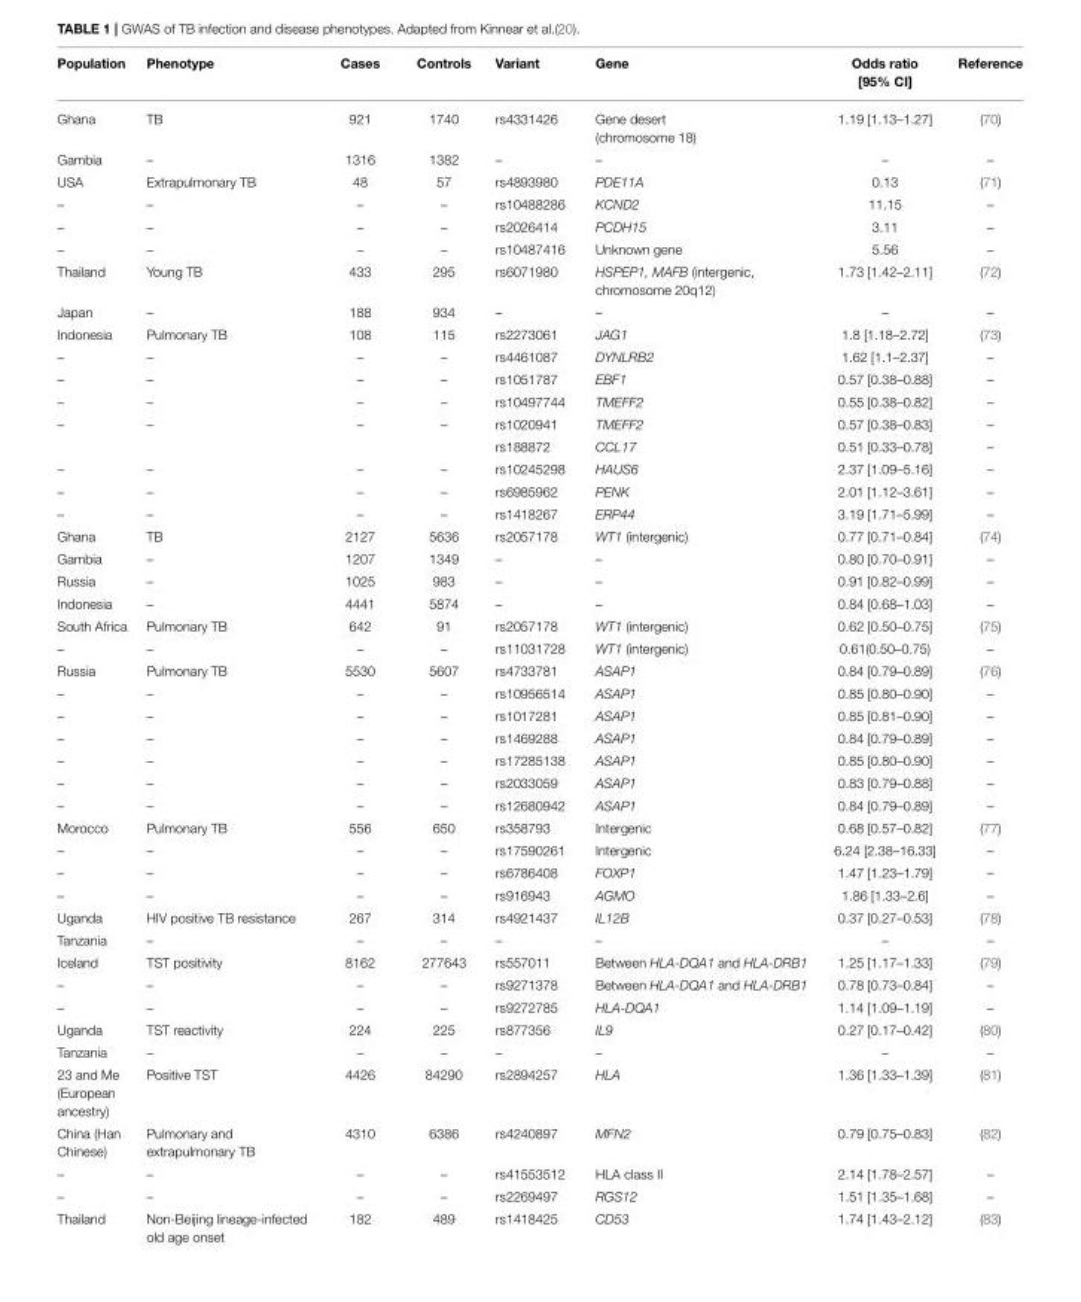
<table><thead><tr><td>Population</td><td>Phenotype</td><td>Cases</td><td>Controls</td><td>Variant</td><td>Gene</td><td>Odds ratio [95% CI]</td><td>Reference</td></tr></thead><tbody><tr><td>Ghana</td><td>TB</td><td>921</td><td>1740</td><td>rs4331426</td><td>Gene desert (chromosome 18)</td><td>1.19 [1.13–1.27]</td><td>(70)</td></tr><tr><td>Gambia</td><td>–</td><td>1316</td><td>1382</td><td>–</td><td>–</td><td>–</td><td>–</td></tr><tr><td>USA</td><td>Extrapulmonary TB</td><td>48</td><td>57</td><td>rs4893980</td><td>PDE11A</td><td>0.13</td><td>(71)</td></tr><tr><td>–</td><td>–</td><td>–</td><td>–</td><td>rs10488286</td><td>KCND2</td><td>11.15</td><td>–</td></tr><tr><td>–</td><td>–</td><td>–</td><td>–</td><td>rs2026414</td><td>PCDH15</td><td>3.11</td><td>–</td></tr><tr><td>–</td><td>–</td><td>–</td><td>–</td><td>rs10487416</td><td>Unknown gene</td><td>5.56</td><td>–</td></tr><tr><td>Thailand</td><td>Young TB</td><td>433</td><td>295</td><td>rs6071980</td><td>HSPEP1, MAFB (intergenic, chromosome 20q12)</td><td>1.73 [1.42–2.11]</td><td>(72)</td></tr><tr><td>Japan</td><td>–</td><td>188</td><td>934</td><td>–</td><td>–</td><td>–</td><td>–</td></tr><tr><td>Indonesia</td><td>Pulmonary TB</td><td>108</td><td>115</td><td>rs2273061</td><td>JAG1</td><td>1.8 [1.18–2.72]</td><td>(73)</td></tr><tr><td>–</td><td>–</td><td>–</td><td>–</td><td>rs4461087</td><td>DYNLRB2</td><td>1.62 [1.1–2.37]</td><td>–</td></tr><tr><td>–</td><td>–</td><td>–</td><td>–</td><td>rs1051787</td><td>EBF1</td><td>0.57 [0.38–0.88]</td><td>–</td></tr><tr><td>–</td><td>–</td><td>–</td><td>–</td><td>rs10497744</td><td>TMEFF2</td><td>0.55 [0.38–0.82]</td><td>–</td></tr><tr><td rowspan="2">–</td><td>–</td><td>–</td><td>–</td><td>rs1020941</td><td>TMEFF2</td><td>0.57 [0.38–0.83]</td><td>–</td></tr><tr><td></td><td></td><td></td><td>rs188872</td><td>CCL17</td><td>0.51 [0.33–0.78]</td><td>–</td></tr><tr><td>–</td><td>–</td><td>–</td><td>–</td><td>rs10245298</td><td>HAUS6</td><td>2.37 [1.09–5.16]</td><td>–</td></tr><tr><td>–</td><td>–</td><td>–</td><td>–</td><td>rs6985962</td><td>PENK</td><td>2.01 [1.12–3.61]</td><td>–</td></tr><tr><td>–</td><td>–</td><td>–</td><td>–</td><td>rs1418267</td><td>ERP44</td><td>3.19 [1.71–5.99]</td><td>–</td></tr><tr><td>Ghana</td><td>TB</td><td>2127</td><td>5636</td><td>rs2057178</td><td>WT1 (intergenic)</td><td>0.77 [0.71–0.84]</td><td>(74)</td></tr><tr><td>Gambia</td><td>–</td><td>1207</td><td>1349</td><td>–</td><td>–</td><td>0.80 [0.70–0.91]</td><td>–</td></tr><tr><td>Russia</td><td>–</td><td>1025</td><td>983</td><td>–</td><td>–</td><td>0.91 [0.82–0.99]</td><td>–</td></tr><tr><td>Indonesia</td><td>–</td><td>4441</td><td>5874</td><td>–</td><td>–</td><td>0.84 [0.68–1.03]</td><td>–</td></tr><tr><td>South Africa</td><td>Pulmonary TB</td><td>642</td><td>91</td><td>rs2057178</td><td>WT1 (intergenic)</td><td>0.62 [0.50–0.75]</td><td>(75)</td></tr><tr><td>–</td><td>–</td><td>–</td><td>–</td><td>rs11031728</td><td>WT1 (intergenic)</td><td>0.61(0.50–0.75)</td><td>–</td></tr><tr><td>Russia</td><td>Pulmonary TB</td><td>5530</td><td>5607</td><td>rs4733781</td><td>ASAP1</td><td>0.84 [0.79–0.89]</td><td>(76)</td></tr><tr><td>–</td><td>–</td><td>–</td><td>–</td><td>rs10956514</td><td>ASAP1</td><td>0.85 [0.80–0.90]</td><td>–</td></tr><tr><td>–</td><td>–</td><td>–</td><td>–</td><td>rs1017281</td><td>ASAP1</td><td>0.85 [0.81–0.90]</td><td>–</td></tr><tr><td>–</td><td>–</td><td>–</td><td>–</td><td>rs1469288</td><td>ASAP1</td><td>0.84 [0.79–0.89]</td><td>–</td></tr><tr><td>–</td><td>–</td><td>–</td><td>–</td><td>rs17285138</td><td>ASAP1</td><td>0.85 [0.80–0.90]</td><td>–</td></tr><tr><td>–</td><td>–</td><td>–</td><td>–</td><td>rs2033059</td><td>ASAP1</td><td>0.83 [0.79–0.88]</td><td>–</td></tr><tr><td>–</td><td>–</td><td>–</td><td>–</td><td>rs12680942</td><td>ASAP1</td><td>0.84 [0.79–0.89]</td><td>–</td></tr><tr><td>Morocco</td><td>Pulmonary TB</td><td>556</td><td>650</td><td>rs358793</td><td>Intergenic</td><td>0.68 [0.57–0.82]</td><td>(77)</td></tr><tr><td>–</td><td>–</td><td>–</td><td>–</td><td>rs17590261</td><td>Intergenic</td><td>6.24 [2.38–16.33]</td><td>–</td></tr><tr><td>–</td><td>–</td><td>–</td><td>–</td><td>rs6786408</td><td>FOXP1</td><td>1.47 [1.23–1.79]</td><td>–</td></tr><tr><td>–</td><td>–</td><td>–</td><td>–</td><td>rs916943</td><td>AGMO</td><td>1.86 [1.33–2.6]</td><td>–</td></tr><tr><td>Uganda</td><td>HIV positive TB resistance</td><td>267</td><td>314</td><td>rs4921437</td><td>IL12B</td><td>0.37 [0.27–0.53]</td><td>(78)</td></tr><tr><td>Tanzania</td><td>–</td><td>–</td><td>–</td><td>–</td><td>–</td><td>–</td><td>–</td></tr><tr><td>Iceland</td><td>TST positivity</td><td>8162</td><td>277643</td><td>rs557011</td><td>Between HLA-DQA1 and HLA-DRB1</td><td>1.25 [1.17–1.33]</td><td>(79)</td></tr><tr><td>–</td><td>–</td><td>–</td><td>–</td><td>rs9271378</td><td>Between HLA-DQA1 and HLA-DRB1</td><td>0.78 [0.73–0.84]</td><td>–</td></tr><tr><td>–</td><td>–</td><td>–</td><td>–</td><td>rs9272785</td><td>HLA-DQA1</td><td>1.14 [1.09–1.19]</td><td>–</td></tr><tr><td>Uganda</td><td>TST reactivity</td><td>224</td><td>225</td><td>rs877356</td><td>IL9</td><td>0.27 [0.17–0.42]</td><td>(80)</td></tr><tr><td>Tanzania</td><td>–</td><td>–</td><td>–</td><td>–</td><td>–</td><td>–</td><td>–</td></tr><tr><td>23 and Me (European ancestry)</td><td>Positive TST</td><td>4426</td><td>84290</td><td>rs2894257</td><td>HLA</td><td>1.36 [1.33–1.39]</td><td>(81)</td></tr><tr><td>China (Han Chinese)</td><td>Pulmonary and extrapulmonary TB</td><td>4310</td><td>6386</td><td>rs4240897</td><td>MFN2</td><td>0.79 [0.75–0.83]</td><td>(82)</td></tr><tr><td>–</td><td>–</td><td>–</td><td>–</td><td>rs41553512</td><td>HLA class II</td><td>2.14 [1.78–2.57]</td><td>–</td></tr><tr><td>–</td><td>–</td><td>–</td><td>–</td><td>rs2269497</td><td>RGS12</td><td>1.51 [1.35–1.68]</td><td>–</td></tr><tr><td>Thailand</td><td>Non-Beijing lineage-infected old age onset</td><td>182</td><td>489</td><td>rs1418425</td><td>CD53</td><td>1.74 [1.43–2.12]</td><td>(83)</td></tr></tbody></table>